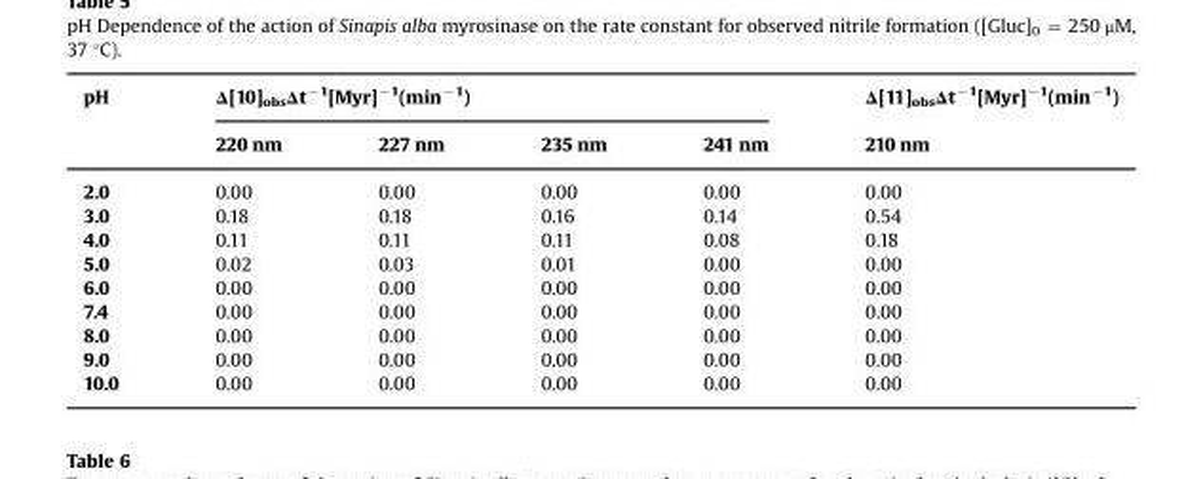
<table><thead><tr><td rowspan="2">pH</td><td colspan="4">Δ[10]<sub>obs</sub>Δt<sup>−1</sup>[Myr]<sup>−1</sup>(min<sup>−1</sup>)</td><td rowspan="2">Δ[11]<sub>obs</sub>Δt<sup>−1</sup>[Myr]<sup>−1</sup>(min<sup>−1</sup>) 210 nm</td></tr><tr><td>220 nm</td><td>227 nm</td><td>235 nm</td><td>241 nm</td></tr></thead><tbody><tr><td>2.0</td><td>0.00</td><td>0.00</td><td>0.00</td><td>0.00</td><td>0.00</td></tr><tr><td>3.0</td><td>0.18</td><td>0.18</td><td>0.16</td><td>0.14</td><td>0.54</td></tr><tr><td>4.0</td><td>0.11</td><td>0.11</td><td>0.11</td><td>0.08</td><td>0.18</td></tr><tr><td>5.0</td><td>0.02</td><td>0.03</td><td>0.01</td><td>0.00</td><td>0.00</td></tr><tr><td>6.0</td><td>0.00</td><td>0.00</td><td>0.00</td><td>0.00</td><td>0.00</td></tr><tr><td>7.4</td><td>0.00</td><td>0.00</td><td>0.00</td><td>0.00</td><td>0.00</td></tr><tr><td>8.0</td><td>0.00</td><td>0.00</td><td>0.00</td><td>0.00</td><td>0.00</td></tr><tr><td>9.0</td><td>0.00</td><td>0.00</td><td>0.00</td><td>0.00</td><td>0.00</td></tr><tr><td>10.0</td><td>0.00</td><td>0.00</td><td>0.00</td><td>0.00</td><td>0.00</td></tr></tbody></table>